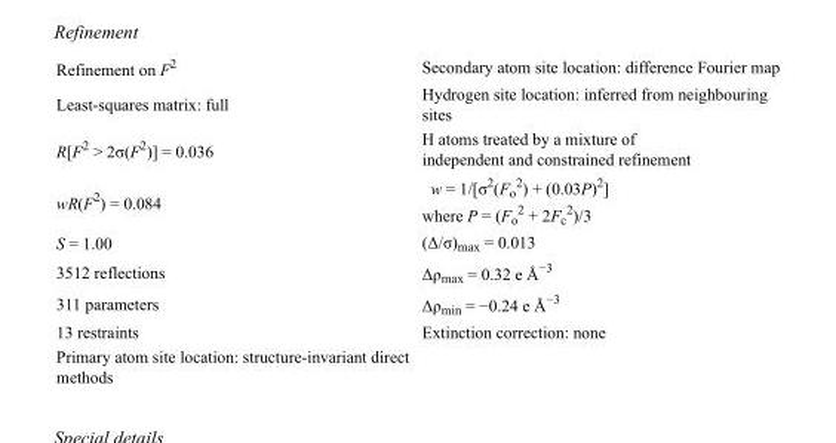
<table><tbody><tr><td>Refinement on F<sup>2</sup></td><td>Secondary atom site location: difference Fourier map</td></tr><tr><td>Least-squares matrix: full</td><td>Hydrogen site location: inferred from neighbouring sites</td></tr><tr><td>R[F<sup>2</sup> &gt; 2σ(F<sup>2</sup>)] = 0.036</td><td>H atoms treated by a mixture of independent and constrained refinement</td></tr><tr><td>wR(F<sup>2</sup>) = 0.084</td><td>w = 1/[σ<sup>2</sup>(F<sub>o</sub> <sup>2</sup>) + (0.03P)<sup>2</sup>] where P = (F<sub>o</sub> <sup>2</sup> + 2F<sub>c</sub> <sup>2</sup>)/3</td></tr><tr><td>S = 1.00</td><td>(Δ/σ)<sub>max</sub> = 0.013</td></tr><tr><td>3512 reflections</td><td>Δρ<sub>max</sub> = 0.32 e Å<sup>−3</sup></td></tr><tr><td>311 parameters</td><td>Δρ<sub>min</sub> = −0.24 e Å<sup>−3</sup></td></tr><tr><td>13 restraints</td><td>Extinction correction: none</td></tr><tr><td>Primary atom site location: structure-invariant direct methods</td><td></td></tr></tbody></table>